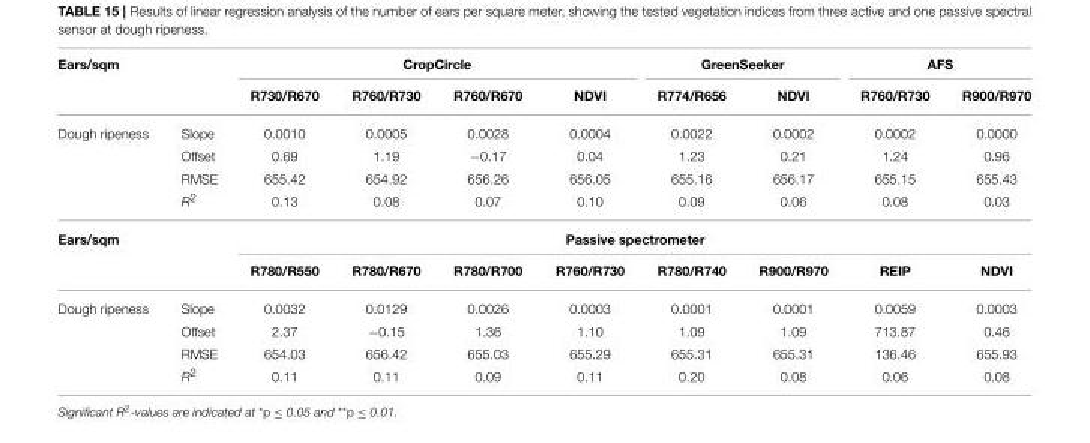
<table><thead><tr><td colspan="2">Ears/sqm</td><td colspan="4">CropCircle</td><td colspan="2">GreenSeeker</td><td colspan="2">AFS</td></tr><tr><td></td><td></td><td>R730/R670</td><td>R760/R730</td><td>R760/R670</td><td>NDVI</td><td>R774/R656</td><td>NDVI</td><td>R760/R730</td><td>R900/R970</td></tr></thead><tbody><tr><td rowspan="4">Dough ripeness</td><td>Slope</td><td>0.0010</td><td>0.0005</td><td>0.0028</td><td>0.0004</td><td>0.0022</td><td>0.0002</td><td>0.0002</td><td>0.0000</td></tr><tr><td>Offset</td><td>0.69</td><td>1.19</td><td>−0.17</td><td>0.04</td><td>1.23</td><td>0.21</td><td>1.24</td><td>0.96</td></tr><tr><td>RMSE</td><td>655.42</td><td>654.92</td><td>656.26</td><td>656.05</td><td>655.16</td><td>656.17</td><td>655.15</td><td>655.43</td></tr><tr><td>R<sup>2</sup></td><td>0.13</td><td>0.08</td><td>0.07</td><td>0.10</td><td>0.09</td><td>0.06</td><td>0.08</td><td>0.03</td></tr><tr><td colspan="2">Ears/sqm</td><td colspan="8">Passive spectrometer</td></tr><tr><td></td><td></td><td>R780/R550</td><td>R780/R670</td><td>R780/R700</td><td>R760/R730</td><td>R780/R740</td><td>R900/R970</td><td>REIP</td><td>NDVI</td></tr><tr><td rowspan="4">Dough ripeness</td><td>Slope</td><td>0.0032</td><td>0.0129</td><td>0.0026</td><td>0.0003</td><td>0.0001</td><td>0.0001</td><td>0.0059</td><td>0.0003</td></tr><tr><td>Offset</td><td>2.37</td><td>−0.15</td><td>1.36</td><td>1.10</td><td>1.09</td><td>1.09</td><td>713.87</td><td>0.46</td></tr><tr><td>RMSE</td><td>654.03</td><td>656.42</td><td>655.03</td><td>655.29</td><td>655.31</td><td>655.31</td><td>136.46</td><td>655.93</td></tr><tr><td>R<sup>2</sup></td><td>0.11</td><td>0.11</td><td>0.09</td><td>0.11</td><td>0.20</td><td>0.08</td><td>0.06</td><td>0.08</td></tr></tbody></table>